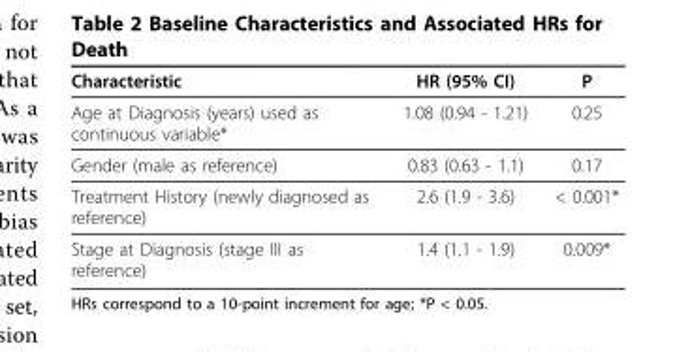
<table><thead><tr><td>Characteristic</td><td>HR (95% CI)</td><td>P</td></tr></thead><tbody><tr><td>Age at Diagnosis (years) used as continuous variable*</td><td>1.08 (0.94 - 1.21)</td><td>0.25</td></tr><tr><td>Gender (male as reference)</td><td>0.83 (0.63 - 1.1)</td><td>0.17</td></tr><tr><td>Treatment History (newly diagnosed as reference)</td><td>2.6 (1.9 - 3.6)</td><td>&lt; 0.001*</td></tr><tr><td>Stage at Diagnosis (stage III as reference)</td><td>1.4 (1.1 - 1.9)</td><td>0.009*</td></tr></tbody></table>